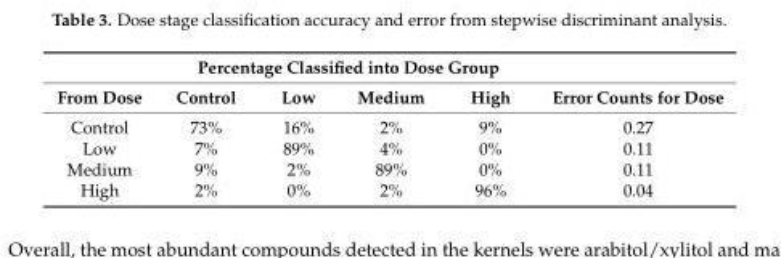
<table><thead><tr><td rowspan="2">From Dose</td><td colspan="4">Percentage Classified into Dose Group</td><td rowspan="2">Error Counts for Dose</td></tr><tr><td>Control</td><td>Low</td><td>Medium</td><td>High</td></tr></thead><tbody><tr><td>Control</td><td>73%</td><td>16%</td><td>2%</td><td>9%</td><td>0.27</td></tr><tr><td>Low</td><td>7%</td><td>89%</td><td>4%</td><td>0%</td><td>0.11</td></tr><tr><td>Medium</td><td>9%</td><td>2%</td><td>89%</td><td>0%</td><td>0.11</td></tr><tr><td>High</td><td>2%</td><td>0%</td><td>2%</td><td>96%</td><td>0.04</td></tr></tbody></table>